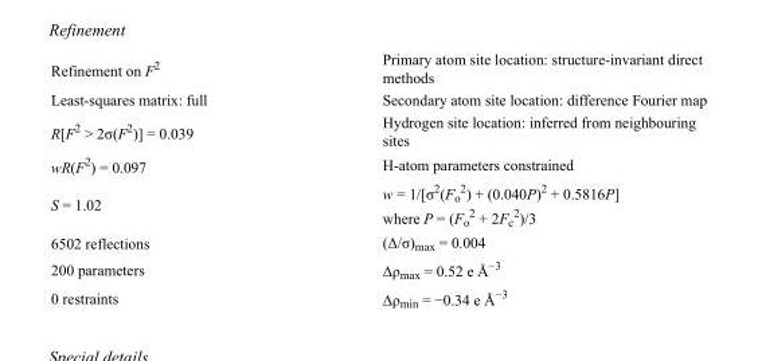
<table><tbody><tr><td>Refinement on F<sup>2</sup></td><td>Primary atom site location: structure-invariant direct methods</td></tr><tr><td>Least-squares matrix: full</td><td>Secondary atom site location: difference Fourier map</td></tr><tr><td>R[F<sup>2</sup> &gt; 2σ(F<sup>2</sup>)] = 0.039</td><td>Hydrogen site location: inferred from neighbouring sites</td></tr><tr><td>wR(F<sup>2</sup>) = 0.097</td><td>H-atom parameters constrained</td></tr><tr><td>S = 1.02</td><td>w = 1/[σ<sup>2</sup>(F<sub>o</sub> <sup>2</sup>) + (0.040P)<sup>2</sup> + 0.5816P] where P = (F<sub>o</sub> <sup>2</sup> + 2F<sub>c</sub> <sup>2</sup>)/3</td></tr><tr><td>6502 reflections</td><td>(Δ/σ)<sub>max</sub> = 0.004</td></tr><tr><td>200 parameters</td><td>Δρ<sub>max</sub> = 0.52 e Å<sup>−3</sup></td></tr><tr><td>0 restraints</td><td>Δρ<sub>min</sub> = −0.34 e Å<sup>−3</sup></td></tr></tbody></table>